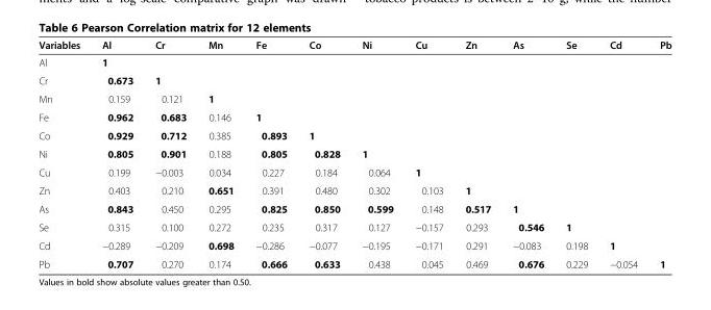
<table><thead><tr><td>Variables</td><td>Al</td><td>Cr</td><td>Mn</td><td>Fe</td><td>Co</td><td>Ni</td><td>Cu</td><td>Zn</td><td>As</td><td>Se</td><td>Cd</td><td>Pb</td></tr></thead><tbody><tr><td>Al</td><td>1</td><td></td><td></td><td></td><td></td><td></td><td></td><td></td><td></td><td></td><td></td><td></td></tr><tr><td>Cr</td><td>0.673</td><td>1</td><td></td><td></td><td></td><td></td><td></td><td></td><td></td><td></td><td></td><td></td></tr><tr><td>Mn</td><td>0.159</td><td>0.121</td><td>1</td><td></td><td></td><td></td><td></td><td></td><td></td><td></td><td></td><td></td></tr><tr><td>Fe</td><td>0.962</td><td>0.683</td><td>0.146</td><td>1</td><td></td><td></td><td></td><td></td><td></td><td></td><td></td><td></td></tr><tr><td>Co</td><td>0.929</td><td>0.712</td><td>0.385</td><td>0.893</td><td>1</td><td></td><td></td><td></td><td></td><td></td><td></td><td></td></tr><tr><td>Ni</td><td>0.805</td><td>0.901</td><td>0.188</td><td>0.805</td><td>0.828</td><td>1</td><td></td><td></td><td></td><td></td><td></td><td></td></tr><tr><td>Cu</td><td>0.199</td><td>−0.003</td><td>0.034</td><td>0.227</td><td>0.184</td><td>0.064</td><td>1</td><td></td><td></td><td></td><td></td><td></td></tr><tr><td>Zn</td><td>0.403</td><td>0.210</td><td>0.651</td><td>0.391</td><td>0.480</td><td>0.302</td><td>0.103</td><td>1</td><td></td><td></td><td></td><td></td></tr><tr><td>As</td><td>0.843</td><td>0.450</td><td>0.295</td><td>0.825</td><td>0.850</td><td>0.599</td><td>0.148</td><td>0.517</td><td>1</td><td></td><td></td><td></td></tr><tr><td>Se</td><td>0.315</td><td>0.100</td><td>0.272</td><td>0.235</td><td>0.317</td><td>0.127</td><td>−0.157</td><td>0.293</td><td>0.546</td><td>1</td><td></td><td></td></tr><tr><td>Cd</td><td>−0.289</td><td>−0.209</td><td>0.698</td><td>−0.286</td><td>−0.077</td><td>−0.195</td><td>−0.171</td><td>0.291</td><td>−0.083</td><td>0.198</td><td>1</td><td></td></tr><tr><td>Pb</td><td>0.707</td><td>0.270</td><td>0.174</td><td>0.666</td><td>0.633</td><td>0.438</td><td>0.045</td><td>0.469</td><td>0.676</td><td>0.229</td><td>−0.054</td><td>1</td></tr></tbody></table>